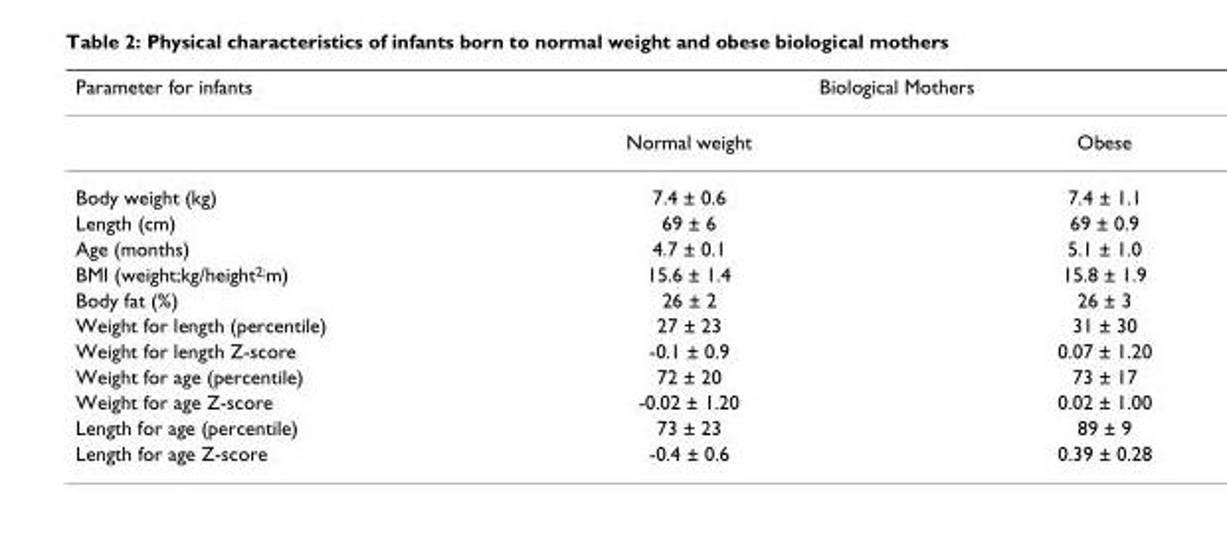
<table><thead><tr><td rowspan="2">Parameter for infants</td><td colspan="2">Biological Mothers</td></tr><tr><td>Normal weight</td><td>Obese</td></tr></thead><tbody><tr><td>Body weight (kg)</td><td>7.4 ± 0.6</td><td>7.4 ± 1.1</td></tr><tr><td>Length (cm)</td><td>69 ± 6</td><td>69 ± 0.9</td></tr><tr><td>Age (months)</td><td>4.7 ± 0.1</td><td>5.1 ± 1.0</td></tr><tr><td>BMI (weight;kg/height<sup>2;</sup>m)</td><td>15.6 ± 1.4</td><td>15.8 ± 1.9</td></tr><tr><td>Body fat (%)</td><td>26 ± 2</td><td>26 ± 3</td></tr><tr><td>Weight for length (percentile)</td><td>27 ± 23</td><td>31 ± 30</td></tr><tr><td>Weight for length Z-score</td><td>-0.1 ± 0.9</td><td>0.07 ± 1.20</td></tr><tr><td>Weight for age (percentile)</td><td>72 ± 20</td><td>73 ± 17</td></tr><tr><td>Weight for age Z-score</td><td>-0.02 ± 1.20</td><td>0.02 ± 1.00</td></tr><tr><td>Length for age (percentile)</td><td>73 ± 23</td><td>89 ± 9</td></tr><tr><td>Length for age Z-score</td><td>-0.4 ± 0.6</td><td>0.39 ± 0.28</td></tr></tbody></table>